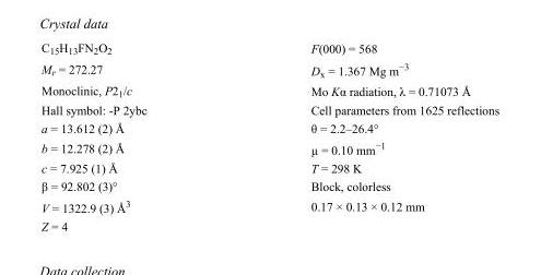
<table><tbody><tr><td>C<sub>15</sub>H<sub>13</sub>FN<sub>2</sub>O<sub>2</sub></td><td>F(000) = 568</td></tr><tr><td>M<sub>r</sub> = 272.27</td><td>D<sub>x</sub> = 1.367 Mg m<sup>−3</sup></td></tr><tr><td>Monoclinic, P2<sub>1</sub>/c</td><td>Mo Kα radiation, λ = 0.71073 Å</td></tr><tr><td>Hall symbol: -P 2ybc</td><td>Cell parameters from 1625 reflections</td></tr><tr><td>a = 13.612 (2) Å</td><td>θ = 2.2–26.4°</td></tr><tr><td>b = 12.278 (2) Å</td><td>µ = 0.10 mm<sup>−1</sup></td></tr><tr><td>c = 7.925 (1) Å</td><td>T = 298 K</td></tr><tr><td>β = 92.802 (3)°</td><td>Block, colorless</td></tr><tr><td>V = 1322.9 (3) Å<sup>3</sup></td><td>0.17 × 0.13 × 0.12 mm</td></tr><tr><td>Z = 4</td><td></td></tr></tbody></table>